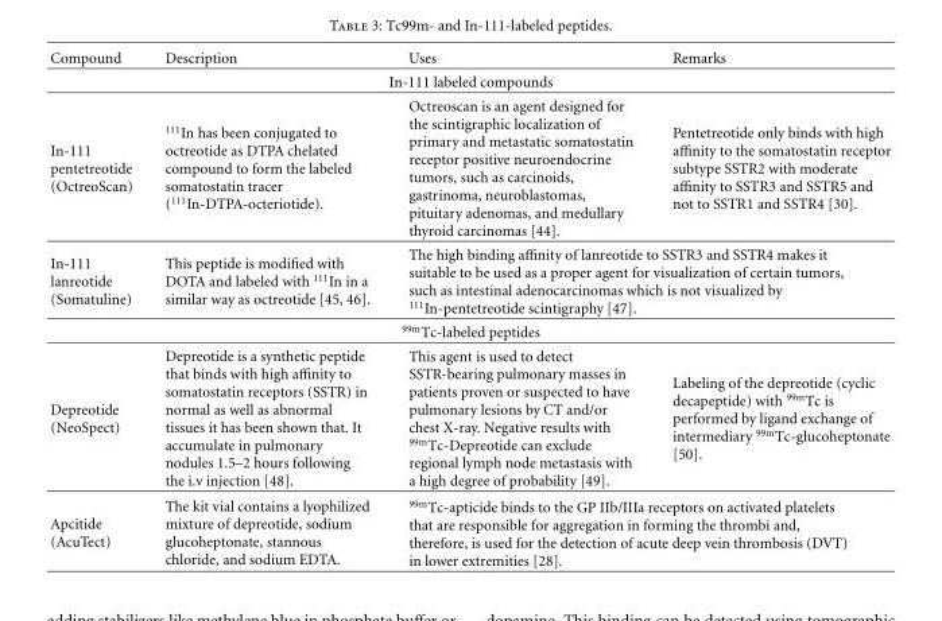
<table><thead><tr><td>Compound</td><td>Description</td><td>Uses</td><td>Remarks</td></tr></thead><tbody><tr><td colspan="4">In-111 labeled compounds</td></tr><tr><td>In-111 pentetreotide (OctreoScan)</td><td><sup>111</sup>In has been conjugated to octreotide as DTPA chelated compound to form the labeled somatostatin tracer (<sup>111</sup>In-DTPA-octeriotide).</td><td>Octreoscan is an agent designed for the scintigraphic localization of primary and metastatic somatostatin receptor positive neuroendocrine tumors, such as carcinoids, gastrinoma, neuroblastomas, pituitary adenomas, and medullary thyroid carcinomas [44].</td><td>Pentetreotide only binds with high affinity to the somatostatin receptor subtype SSTR2 with moderate affinity to SSTR3 and SSTR5 and not to SSTR1 and SSTR4 [30].</td></tr><tr><td>In-111 lanreotide (Somatuline)</td><td>This peptide is modified with DOTA and labeled with <sup>111</sup>In in a similar way as octreotide [45, 46].</td><td colspan="2">The high binding affinity of lanreotide to SSTR3 and SSTR4 makes it suitable to be used as a proper agent for visualization of certain tumors, such as intestinal adenocarcinomas which is not visualized by <sup>111</sup>In-pentetreotide scintigraphy [47].</td></tr><tr><td colspan="4"><sup>99m</sup>Tc-labeled peptides</td></tr><tr><td>Depreotide (NeoSpect)</td><td>Depreotide is a synthetic peptide that binds with high affinity to somatostatin receptors (SSTR) in normal as well as abnormal tissues it has been shown that. It accumulate in pulmonary nodules 1.5–2 hours following the i.v injection [48].</td><td>This agent is used to detect SSTR-bearing pulmonary masses in patients proven or suspected to have pulmonary lesions by CT and/or chest X-ray. Negative results with <sup>99m</sup>Tc-Depreotide can exclude regional lymph node metastasis with a high degree of probability [49].</td><td>Labeling of the depreotide (cyclic decapeptide) with <sup>99m</sup>Tc is performed by ligand exchange of intermediary <sup>99m</sup>Tc-glucoheptonate [50].</td></tr><tr><td>Apcitide (AcuTect)</td><td>The kit vial contains a lyophilized mixture of depreotide, sodium glucoheptonate, stannous chloride, and sodium EDTA.</td><td colspan="2"><sup>99m</sup>Tc-apticide binds to the GP IIb/IIIa receptors on activated platelets that are responsible for aggregation in forming the thrombi and, therefore, is used for the detection of acute deep vein thrombosis (DVT) in lower extremities [28].</td></tr></tbody></table>